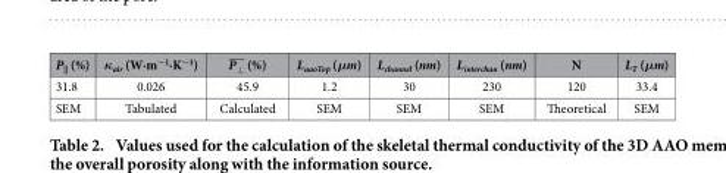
<table><thead><tr><td>P<sub>||</sub> (%)</td><td>κ<sub>air</sub> (W·m<sup>−1</sup>·K<sup>−1</sup>)</td><td>⊥ P (%)</td><td>L<sub>aaoTop</sub> (μm)</td><td>L<sub>channel</sub> (nm)</td><td>L<sub>interchan</sub> (nm)</td><td>N</td><td>L<sub>T</sub> (μm)</td></tr></thead><tbody><tr><td>31.8</td><td>0.026</td><td>45.9</td><td>1.2</td><td>30</td><td>230</td><td>120</td><td>33.4</td></tr><tr><td>SEM</td><td>Tabulated</td><td>Calculated</td><td>SEM</td><td>SEM</td><td>SEM</td><td>Theoretical</td><td>SEM</td></tr></tbody></table>